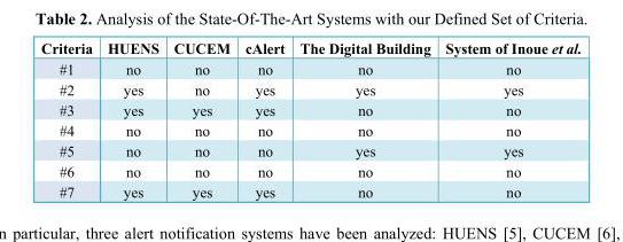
<table><thead><tr><td>Criteria</td><td>HUENS</td><td>CUCEM</td><td>cAlert</td><td>The Digital Building</td><td>System of Inoue et al.</td></tr></thead><tbody><tr><td>#1</td><td>no</td><td>no</td><td>no</td><td>no</td><td>no</td></tr><tr><td>#2</td><td>yes</td><td>no</td><td>yes</td><td>yes</td><td>yes</td></tr><tr><td>#3</td><td>yes</td><td>yes</td><td>yes</td><td>no</td><td>no</td></tr><tr><td>#4</td><td>no</td><td>no</td><td>no</td><td>no</td><td>no</td></tr><tr><td>#5</td><td>no</td><td>no</td><td>no</td><td>yes</td><td>yes</td></tr><tr><td>#6</td><td>no</td><td>no</td><td>no</td><td>no</td><td>no</td></tr><tr><td>#7</td><td>yes</td><td>yes</td><td>yes</td><td>no</td><td>no</td></tr></tbody></table>